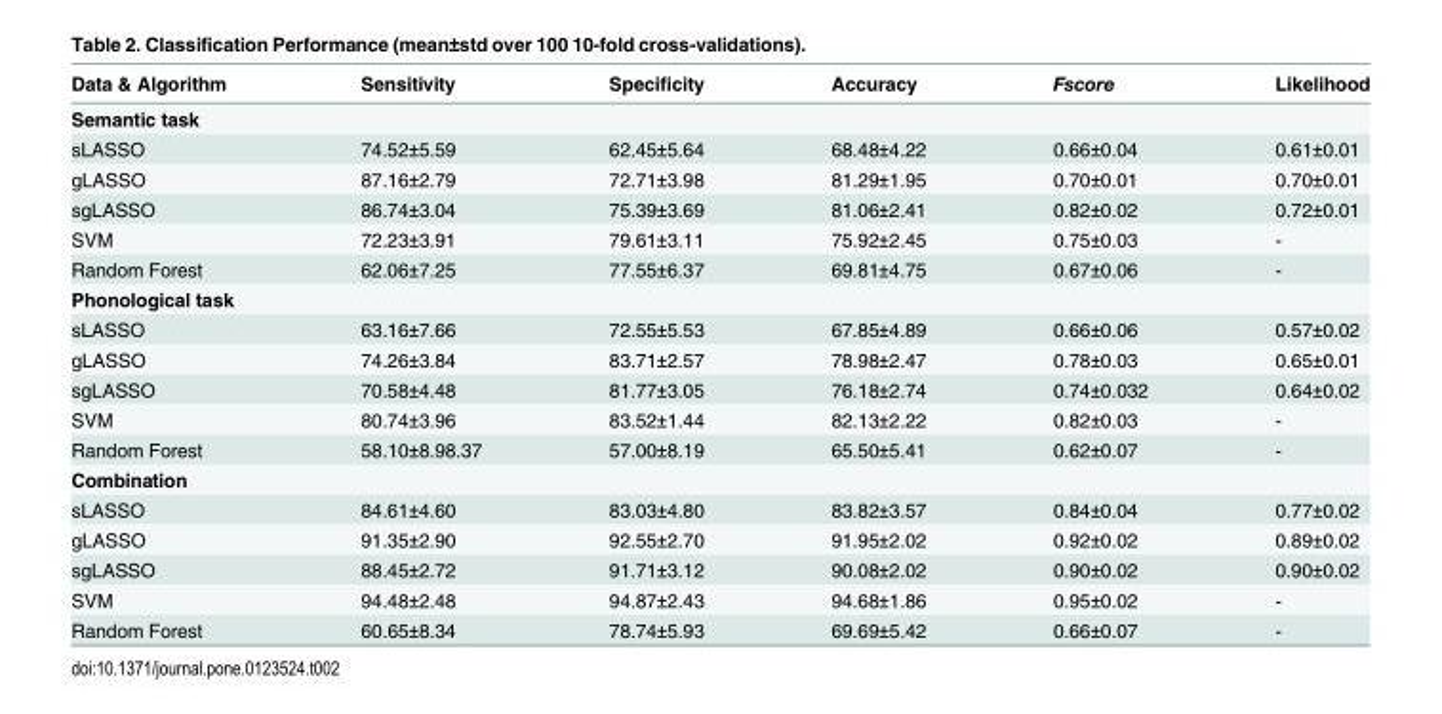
<table><thead><tr><td>Data &amp; Algorithm</td><td>Sensitivity</td><td>Specificity</td><td>Accuracy</td><td>Fscore</td><td>Likelihood</td></tr></thead><tbody><tr><td colspan="6">Semantic task</td></tr><tr><td>sLASSO</td><td>74.52±5.59</td><td>62.45±5.64</td><td>68.48±4.22</td><td>0.66±0.04</td><td>0.61±0.01</td></tr><tr><td>gLASSO</td><td>87.16±2.79</td><td>72.71±3.98</td><td>81.29±1.95</td><td>0.70±0.01</td><td>0.70±0.01</td></tr><tr><td>sgLASSO</td><td>86.74±3.04</td><td>75.39±3.69</td><td>81.06±2.41</td><td>0.82±0.02</td><td>0.72±0.01</td></tr><tr><td>SVM</td><td>72.23±3.91</td><td>79.61±3.11</td><td>75.92±2.45</td><td>0.75±0.03</td><td>-</td></tr><tr><td>Random Forest</td><td>62.06±7.25</td><td>77.55±6.37</td><td>69.81±4.75</td><td>0.67±0.06</td><td>-</td></tr><tr><td colspan="6">Phonological task</td></tr><tr><td>sLASSO</td><td>63.16±7.66</td><td>72.55±5.53</td><td>67.85±4.89</td><td>0.66±0.06</td><td>0.57±0.02</td></tr><tr><td>gLASSO</td><td>74.26±3.84</td><td>83.71±2.57</td><td>78.98±2.47</td><td>0.78±0.03</td><td>0.65±0.01</td></tr><tr><td>sgLASSO</td><td>70.58±4.48</td><td>81.77±3.05</td><td>76.18±2.74</td><td>0.74±0.032</td><td>0.64±0.02</td></tr><tr><td>SVM</td><td>80.74±3.96</td><td>83.52±1.44</td><td>82.13±2.22</td><td>0.82±0.03</td><td>-</td></tr><tr><td>Random Forest</td><td>58.10±8.98.37</td><td>57.00±8.19</td><td>65.50±5.41</td><td>0.62±0.07</td><td>-</td></tr><tr><td colspan="6">Combination</td></tr><tr><td>sLASSO</td><td>84.61±4.60</td><td>83.03±4.80</td><td>83.82±3.57</td><td>0.84±0.04</td><td>0.77±0.02</td></tr><tr><td>gLASSO</td><td>91.35±2.90</td><td>92.55±2.70</td><td>91.95±2.02</td><td>0.92±0.02</td><td>0.89±0.02</td></tr><tr><td>sgLASSO</td><td>88.45±2.72</td><td>91.71±3.12</td><td>90.08±2.02</td><td>0.90±0.02</td><td>0.90±0.02</td></tr><tr><td>SVM</td><td>94.48±2.48</td><td>94.87±2.43</td><td>94.68±1.86</td><td>0.95±0.02</td><td>-</td></tr><tr><td>Random Forest</td><td>60.65±8.34</td><td>78.74±5.93</td><td>69.69±5.42</td><td>0.66±0.07</td><td>-</td></tr></tbody></table>